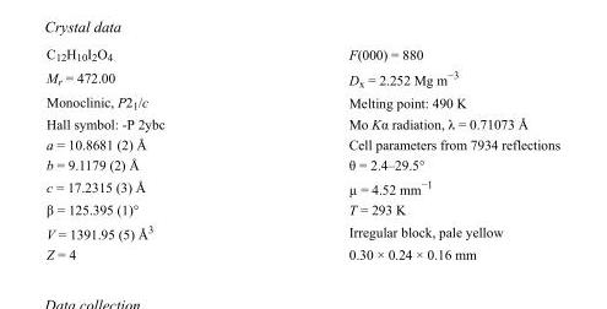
<table><tbody><tr><td>C<sub>12</sub>H<sub>10</sub>I<sub>2</sub>O<sub>4</sub></td><td>F(000) = 880</td></tr><tr><td>M<sub>r</sub> = 472.00</td><td>D<sub>x</sub> = 2.252 Mg m<sup>−3</sup></td></tr><tr><td>Monoclinic, P2<sub>1</sub>/c</td><td>Melting point: 490 K</td></tr><tr><td>Hall symbol: -P 2ybc</td><td>Mo Kα radiation, λ = 0.71073 Å</td></tr><tr><td>a = 10.8681 (2) Å</td><td>Cell parameters from 7934 reflections</td></tr><tr><td>b = 9.1179 (2) Å</td><td>θ = 2.4–29.5°</td></tr><tr><td>c = 17.2315 (3) Å</td><td>µ = 4.52 mm<sup>−1</sup></td></tr><tr><td>β = 125.395 (1)°</td><td>T = 293 K</td></tr><tr><td>V = 1391.95 (5) Å<sup>3</sup></td><td>Irregular block, pale yellow</td></tr><tr><td>Z = 4</td><td>0.30 × 0.24 × 0.16 mm</td></tr></tbody></table>